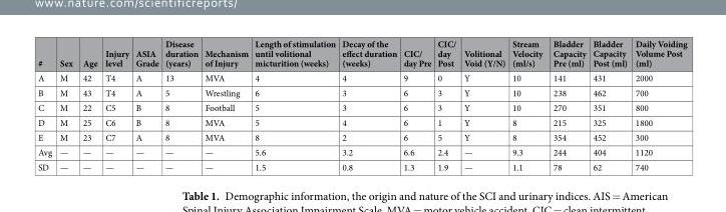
<table><thead><tr><td>#</td><td>Sex</td><td>Age</td><td>Injury level</td><td>ASIA Grade</td><td>Disease duration (years)</td><td>Mechanism of Injury</td><td>Length of stimulation until volitional micturition (weeks)</td><td>Decay of the effect duration (weeks)</td><td>CIC/ day Pre</td><td>CIC/ day Post</td><td>Volitional Void (Y/N)</td><td>Stream Velocity (ml/s)</td><td>Bladder Capacity Pre (ml)</td><td>Bladder Capacity Post (ml)</td><td>Daily Voiding Volume Post (ml)</td></tr></thead><tbody><tr><td>A</td><td>M</td><td>42</td><td>T4</td><td>A</td><td>13</td><td>MVA</td><td>4</td><td>4</td><td>9</td><td>0</td><td>Y</td><td>10</td><td>141</td><td>431</td><td>2000</td></tr><tr><td>B</td><td>M</td><td>43</td><td>T4</td><td>A</td><td>5</td><td>Wrestling</td><td>6</td><td>3</td><td>6</td><td>3</td><td>Y</td><td>10</td><td>238</td><td>462</td><td>700</td></tr><tr><td>C</td><td>M</td><td>22</td><td>C5</td><td>B</td><td>8</td><td>Football</td><td>5</td><td>3</td><td>6</td><td>3</td><td>Y</td><td>10</td><td>270</td><td>351</td><td>800</td></tr><tr><td>D</td><td>M</td><td>25</td><td>C6</td><td>B</td><td>8</td><td>MVA</td><td>5</td><td>4</td><td>6</td><td>1</td><td>Y</td><td>8</td><td>215</td><td>325</td><td>1800</td></tr><tr><td>E</td><td>M</td><td>23</td><td>C7</td><td>A</td><td>8</td><td>MVA</td><td>8</td><td>2</td><td>6</td><td>5</td><td>Y</td><td>8</td><td>354</td><td>452</td><td>300</td></tr><tr><td>Avg</td><td>—</td><td>—</td><td>—</td><td>—</td><td>—</td><td>—</td><td>5.6</td><td>3.2</td><td>6.6</td><td>2.4</td><td>—</td><td>9.3</td><td>244</td><td>404</td><td>1120</td></tr><tr><td>SD</td><td>—</td><td>—</td><td>—</td><td>—</td><td>—</td><td>—</td><td>1.5</td><td>0.8</td><td>1.3</td><td>1.9</td><td>—</td><td>1.1</td><td>78</td><td>62</td><td>740</td></tr></tbody></table>